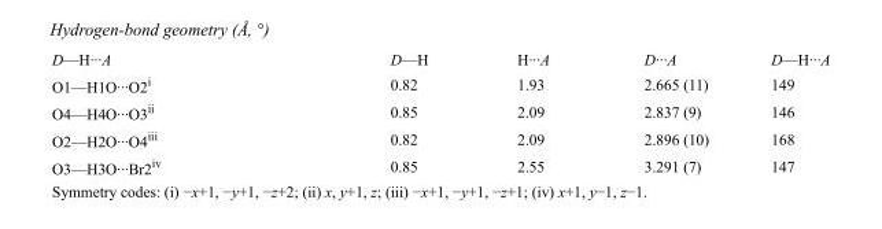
<table><tbody><tr><td>D—H···A</td><td>D—H</td><td>H···A</td><td>D···A</td><td>D—H···A</td></tr><tr><td>O1—H1O···O2<sup>i</sup></td><td>0.82</td><td>1.93</td><td>2.665 (11)</td><td>149</td></tr><tr><td>O4—H4O···O3<sup>ii</sup></td><td>0.85</td><td>2.09</td><td>2.837 (9)</td><td>146</td></tr><tr><td>O2—H2O···O4<sup>iii</sup></td><td>0.82</td><td>2.09</td><td>2.896 (10)</td><td>168</td></tr><tr><td>O3—H3O···Br2<sup>iv</sup></td><td>0.85</td><td>2.55</td><td>3.291 (7)</td><td>147</td></tr></tbody></table>